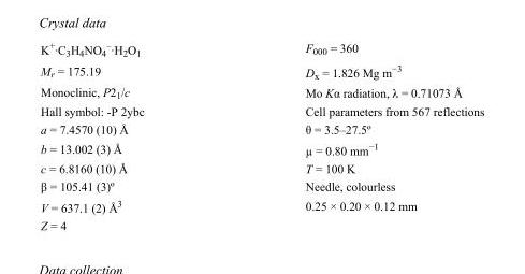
<table><tbody><tr><td>K+·C3H4NO4 –·H2O1</td><td>F000 = 360</td></tr><tr><td>M<sub>r</sub> = 175.19</td><td>D<sub>x</sub> = 1.826 Mg m<sup>−3</sup></td></tr><tr><td>Monoclinic, P2<sub>1</sub>/c</td><td>Mo Kα radiation, λ = 0.71073 Å</td></tr><tr><td>Hall symbol: -P 2ybc</td><td>Cell parameters from 567 reflections</td></tr><tr><td>a = 7.4570 (10) Å</td><td>θ = 3.5–27.5º</td></tr><tr><td>b = 13.002 (3) Å</td><td>µ = 0.80 mm<sup>−1</sup></td></tr><tr><td>c = 6.8160 (10) Å</td><td>T = 100 K</td></tr><tr><td>β = 105.41 (3)º</td><td>Needle, colourless</td></tr><tr><td>V = 637.1 (2) Å<sup>3</sup></td><td>0.25 × 0.20 × 0.12 mm</td></tr><tr><td>Z = 4</td><td></td></tr></tbody></table>